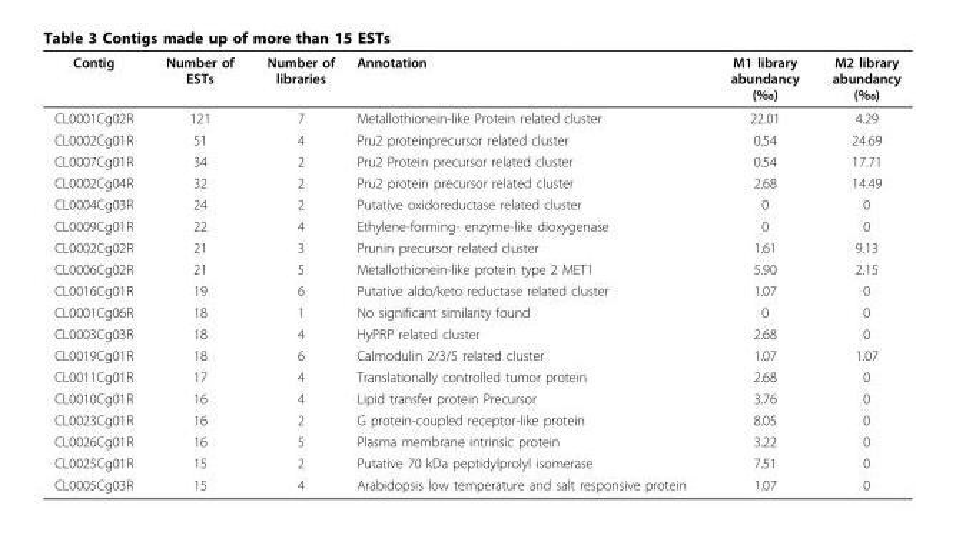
<table><thead><tr><td>Contig</td><td>Number of ESTs</td><td>Number of libraries</td><td>Annotation</td><td>M1 library abundancy (‰)</td><td>M2 library abundancy (‰)</td></tr></thead><tbody><tr><td>CL0001Cg02R</td><td>121</td><td>7</td><td>Metallothionein-like Protein related cluster</td><td>22.01</td><td>4.29</td></tr><tr><td>CL0002Cg01R</td><td>51</td><td>4</td><td>Pru2 proteinprecursor related cluster</td><td>0.54</td><td>24.69</td></tr><tr><td>CL0007Cg01R</td><td>34</td><td>2</td><td>Pru2 Protein precursor related cluster</td><td>0.54</td><td>17.71</td></tr><tr><td>CL0002Cg04R</td><td>32</td><td>2</td><td>Pru2 protein precursor related cluster</td><td>2.68</td><td>14.49</td></tr><tr><td>CL0004Cg03R</td><td>24</td><td>2</td><td>Putative oxidoreductase related cluster</td><td>0</td><td>0</td></tr><tr><td>CL0009Cg01R</td><td>22</td><td>4</td><td>Ethylene-forming- enzyme-like dioxygenase</td><td>0</td><td>0</td></tr><tr><td>CL0002Cg02R</td><td>21</td><td>3</td><td>Prunin precursor related cluster</td><td>1.61</td><td>9.13</td></tr><tr><td>CL0006Cg02R</td><td>21</td><td>5</td><td>Metallothionein-like protein type 2 MET1</td><td>5.90</td><td>2.15</td></tr><tr><td>CL0016Cg01R</td><td>19</td><td>6</td><td>Putative aldo/keto reductase related cluster</td><td>1.07</td><td>0</td></tr><tr><td>CL0001Cg06R</td><td>18</td><td>1</td><td>No significant similarity found</td><td>0</td><td>0</td></tr><tr><td>CL0003Cg03R</td><td>18</td><td>4</td><td>HyPRP related cluster</td><td>2.68</td><td>0</td></tr><tr><td>CL0019Cg01R</td><td>18</td><td>6</td><td>Calmodulin 2/3/5 related cluster</td><td>1.07</td><td>1.07</td></tr><tr><td>CL0011Cg01R</td><td>17</td><td>4</td><td>Translationally controlled tumor protein</td><td>2.68</td><td>0</td></tr><tr><td>CL0010Cg01R</td><td>16</td><td>4</td><td>Lipid transfer protein Precursor</td><td>3.76</td><td>0</td></tr><tr><td>CL0023Cg01R</td><td>16</td><td>2</td><td>G protein-coupled receptor-like protein</td><td>8.05</td><td>0</td></tr><tr><td>CL0026Cg01R</td><td>16</td><td>5</td><td>Plasma membrane intrinsic protein</td><td>3.22</td><td>0</td></tr><tr><td>CL0025Cg01R</td><td>15</td><td>2</td><td>Putative 70 kDa peptidylprolyl isomerase</td><td>7.51</td><td>0</td></tr><tr><td>CL0005Cg03R</td><td>15</td><td>4</td><td>Arabidopsis low temperature and salt responsive protein</td><td>1.07</td><td>0</td></tr></tbody></table>